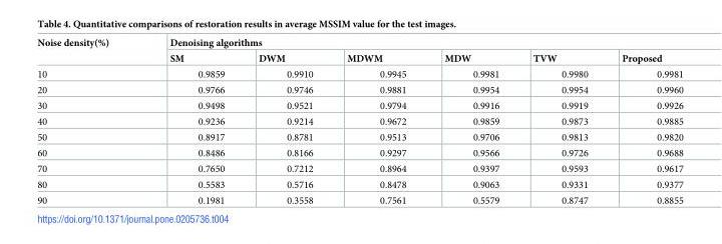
<table><thead><tr><td rowspan="2">Noise density(%)</td><td colspan="6">Denoising algorithms</td></tr><tr><td>SM</td><td>DWM</td><td>MDWM</td><td>MDW</td><td>TVW</td><td>Proposed</td></tr></thead><tbody><tr><td>10</td><td>0.9859</td><td>0.9910</td><td>0.9945</td><td>0.9981</td><td>0.9980</td><td>0.9981</td></tr><tr><td>20</td><td>0.9766</td><td>0.9746</td><td>0.9881</td><td>0.9954</td><td>0.9954</td><td>0.9960</td></tr><tr><td>30</td><td>0.9498</td><td>0.9521</td><td>0.9794</td><td>0.9916</td><td>0.9919</td><td>0.9926</td></tr><tr><td>40</td><td>0.9236</td><td>0.9214</td><td>0.9672</td><td>0.9859</td><td>0.9873</td><td>0.9885</td></tr><tr><td>50</td><td>0.8917</td><td>0.8781</td><td>0.9513</td><td>0.9706</td><td>0.9813</td><td>0.9820</td></tr><tr><td>60</td><td>0.8486</td><td>0.8166</td><td>0.9297</td><td>0.9566</td><td>0.9726</td><td>0.9688</td></tr><tr><td>70</td><td>0.7650</td><td>0.7212</td><td>0.8964</td><td>0.9397</td><td>0.9593</td><td>0.9617</td></tr><tr><td>80</td><td>0.5583</td><td>0.5716</td><td>0.8478</td><td>0.9063</td><td>0.9331</td><td>0.9377</td></tr><tr><td>90</td><td>0.1981</td><td>0.3558</td><td>0.7561</td><td>0.5579</td><td>0.8747</td><td>0.8855</td></tr></tbody></table>